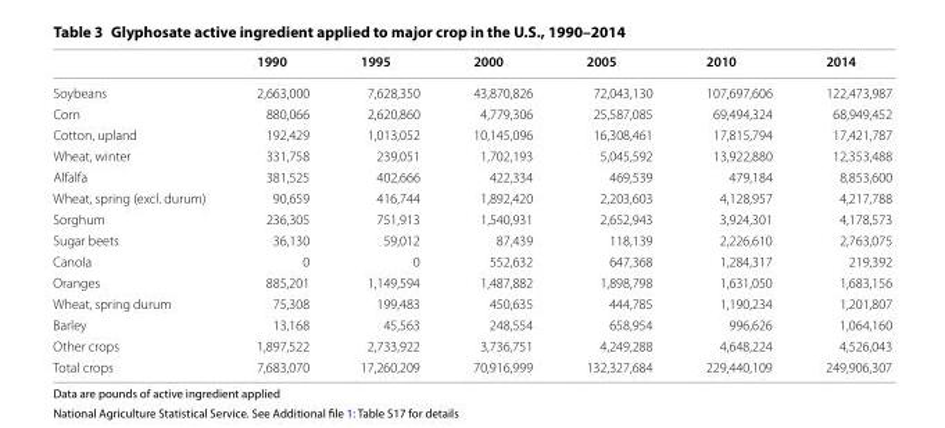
<table><thead><tr><td></td><td>1990</td><td>1995</td><td>2000</td><td>2005</td><td>2010</td><td>2014</td></tr></thead><tbody><tr><td>Soybeans</td><td>2,663,000</td><td>7,628,350</td><td>43,870,826</td><td>72,043,130</td><td>107,697,606</td><td>122,473,987</td></tr><tr><td>Corn</td><td>880,066</td><td>2,620,860</td><td>4,779,306</td><td>25,587,085</td><td>69,494,324</td><td>68,949,452</td></tr><tr><td>Cotton, upland</td><td>192,429</td><td>1,013,052</td><td>10,145,096</td><td>16,308,461</td><td>17,815,794</td><td>17,421,787</td></tr><tr><td>Wheat, winter</td><td>331,758</td><td>239,051</td><td>1,702,193</td><td>5,045,592</td><td>13,922,880</td><td>12,353,488</td></tr><tr><td>Alfalfa</td><td>381,525</td><td>402,666</td><td>422,334</td><td>469,539</td><td>479,184</td><td>8,853,600</td></tr><tr><td>Wheat, spring (excl. durum)</td><td>90,659</td><td>416,744</td><td>1,892,420</td><td>2,203,603</td><td>4,128,957</td><td>4,217,788</td></tr><tr><td>Sorghum</td><td>236,305</td><td>751,913</td><td>1,540,931</td><td>2,652,943</td><td>3,924,301</td><td>4,178,573</td></tr><tr><td>Sugar beets</td><td>36,130</td><td>59,012</td><td>87,439</td><td>118,139</td><td>2,226,610</td><td>2,763,075</td></tr><tr><td>Canola</td><td>0</td><td>0</td><td>552,632</td><td>647,368</td><td>1,284,317</td><td>219,392</td></tr><tr><td>Oranges</td><td>885,201</td><td>1,149,594</td><td>1,487,882</td><td>1,898,798</td><td>1,631,050</td><td>1,683,156</td></tr><tr><td>Wheat, spring durum</td><td>75,308</td><td>199,483</td><td>450,635</td><td>444,785</td><td>1,190,234</td><td>1,201,807</td></tr><tr><td>Barley</td><td>13,168</td><td>45,563</td><td>248,554</td><td>658,954</td><td>996,626</td><td>1,064,160</td></tr><tr><td>Other crops</td><td>1,897,522</td><td>2,733,922</td><td>3,736,751</td><td>4,249,288</td><td>4,648,224</td><td>4,526,043</td></tr><tr><td>Total crops</td><td>7,683,070</td><td>17,260,209</td><td>70,916,999</td><td>132,327,684</td><td>229,440,109</td><td>249,906,307</td></tr></tbody></table>